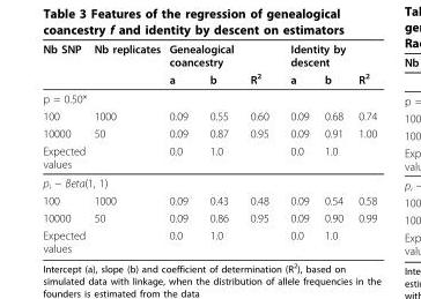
<table><thead><tr><td rowspan="2">Nb SNP</td><td rowspan="2">Nb replicates</td><td colspan="3">Genealogical coancestry</td><td colspan="3">Identity by descent</td></tr><tr><td>a</td><td>b</td><td>R<sup>2</sup></td><td>a</td><td>b</td><td>R<sup>2</sup></td></tr></thead><tbody><tr><td colspan="8">p = 0.50*</td></tr><tr><td>100</td><td>1000</td><td>0.09</td><td>0.55</td><td>0.60</td><td>0.09</td><td>0.68</td><td>0.74</td></tr><tr><td>10000</td><td>50</td><td>0.09</td><td>0.87</td><td>0.95</td><td>0.09</td><td>0.91</td><td>1.00</td></tr><tr><td>Expected values</td><td></td><td>0.0</td><td>1.0</td><td></td><td>0.0</td><td>1.0</td><td></td></tr><tr><td colspan="8">p<sub>i</sub> ~ Beta(1, 1)</td></tr><tr><td>100</td><td>1000</td><td>0.09</td><td>0.43</td><td>0.48</td><td>0.09</td><td>0.54</td><td>0.58</td></tr><tr><td>10000</td><td>50</td><td>0.09</td><td>0.86</td><td>0.95</td><td>0.09</td><td>0.90</td><td>0.99</td></tr><tr><td>Expected values</td><td></td><td>0.0</td><td>1.0</td><td></td><td>0.0</td><td>1.0</td><td></td></tr></tbody></table>